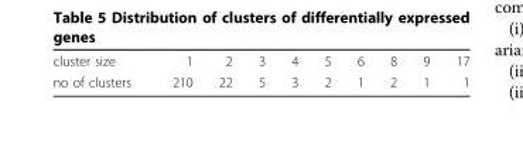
<table><tbody><tr><td>cluster size</td><td>1</td><td>2</td><td>3</td><td>4</td><td>5</td><td>6</td><td>8</td><td>9</td><td>17</td></tr><tr><td>no of clusters</td><td>210</td><td>22</td><td>5</td><td>3</td><td>2</td><td>1</td><td>2</td><td>1</td><td>1</td></tr></tbody></table>